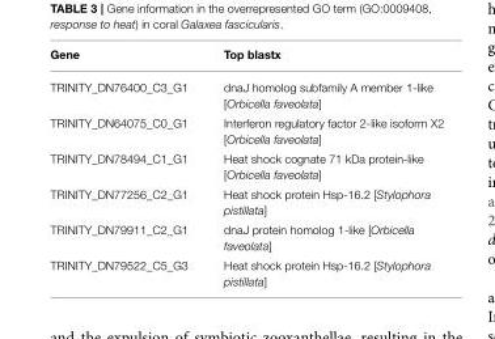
<table><thead><tr><td>Gene</td><td>Top blastx</td></tr></thead><tbody><tr><td>TRINITY_DN76400_C3_G1</td><td>dnaJ homolog subfamily A member 1-like [Orbicella faveolata]</td></tr><tr><td>TRINITY_DN64075_C0_G1</td><td>Interferon regulatory factor 2-like isoform X2 [Orbicella faveolata]</td></tr><tr><td>TRINITY_DN78494_C1_G1</td><td>Heat shock cognate 71 kDa protein-like [Orbicella faveolata]</td></tr><tr><td>TRINITY_DN77256_C2_G1</td><td>Heat shock protein Hsp-16.2 [Stylophora pistillata]</td></tr><tr><td>TRINITY_DN79911_C2_G1</td><td>dnaJ protein homolog 1-like [Orbicella faveolata]</td></tr><tr><td>TRINITY_DN79522_C5_G3</td><td>Heat shock protein Hsp-16.2 [Stylophora pistillata]</td></tr></tbody></table>